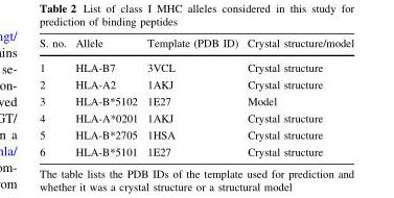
<table><thead><tr><td>S. no.</td><td>Allele</td><td>Template (PDB ID)</td><td>Crystal structure/model</td></tr></thead><tbody><tr><td>1</td><td>HLA-B7</td><td>3VCL</td><td>Crystal structure</td></tr><tr><td>2</td><td>HLA-A2</td><td>1AKJ</td><td>Crystal structure</td></tr><tr><td>3</td><td>HLA-B*5102</td><td>1E27</td><td>Model</td></tr><tr><td>4</td><td>HLA-A*0201</td><td>1AKJ</td><td>Crystal structure</td></tr><tr><td>5</td><td>HLA-B*2705</td><td>1HSA</td><td>Crystal structure</td></tr><tr><td>6</td><td>HLA-B*5101</td><td>1E27</td><td>Crystal structure</td></tr></tbody></table>